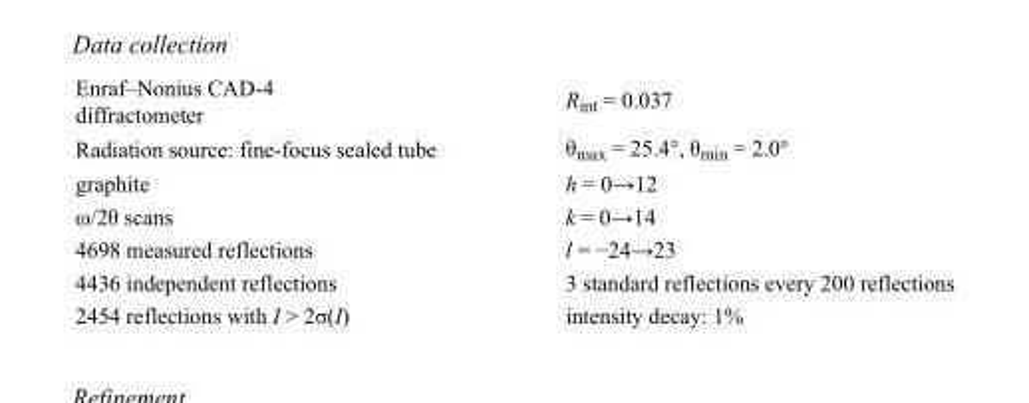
<table><tbody><tr><td>Enraf–Nonius CAD-4 diffractometer</td><td>R<sub>int</sub> = 0.037</td></tr><tr><td>Radiation source: fine-focus sealed tube</td><td>θ<sub>max</sub> = 25.4°, θ<sub>min</sub> = 2.0°</td></tr><tr><td>graphite</td><td>h = 0→12</td></tr><tr><td>ω/2θ scans</td><td>k = 0→14</td></tr><tr><td>4698 measured reflections</td><td>l = −24→23</td></tr><tr><td>4436 independent reflections</td><td>3 standard reflections every 200 reflections</td></tr><tr><td>2454 reflections with I &gt; 2σ(I)</td><td>intensity decay: 1%</td></tr></tbody></table>